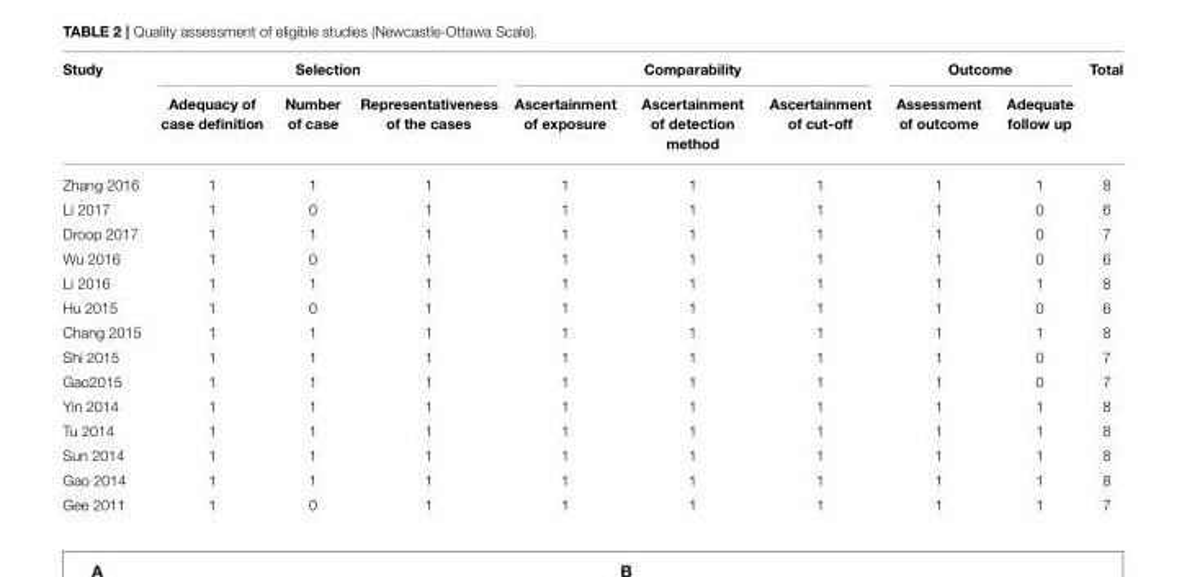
<table><thead><tr><td rowspan="2">Study</td><td colspan="3">Selection</td><td colspan="3">Comparability</td><td colspan="2">Outcome</td><td rowspan="2">Total</td></tr><tr><td>Adequacy of case definition</td><td>Number of case</td><td>Representativeness of the cases</td><td>Ascertainment of exposure</td><td>Ascertainment of detection method</td><td>Ascertainment of cut-off</td><td>Assessment of outcome</td><td>Adequate follow up</td></tr></thead><tbody><tr><td>Zhang 2016</td><td>1</td><td>1</td><td>1</td><td>1</td><td>1</td><td>1</td><td>1</td><td>1</td><td>8</td></tr><tr><td>Li 2017</td><td>1</td><td>0</td><td>1</td><td>1</td><td>1</td><td>1</td><td>1</td><td>0</td><td>6</td></tr><tr><td>Droop 2017</td><td>1</td><td>1</td><td>1</td><td>1</td><td>1</td><td>1</td><td>1</td><td>0</td><td>7</td></tr><tr><td>Wu 2016</td><td>1</td><td>0</td><td>1</td><td>1</td><td>1</td><td>1</td><td>1</td><td>0</td><td>6</td></tr><tr><td>Li 2016</td><td>1</td><td>1</td><td>1</td><td>1</td><td>1</td><td>1</td><td>1</td><td>1</td><td>8</td></tr><tr><td>Hu 2015</td><td>1</td><td>0</td><td>1</td><td>1</td><td>1</td><td>1</td><td>1</td><td>0</td><td>6</td></tr><tr><td>Chang 2015</td><td>1</td><td>1</td><td>1</td><td>1</td><td>1</td><td>1</td><td>1</td><td>1</td><td>8</td></tr><tr><td>Shi 2015</td><td>1</td><td>1</td><td>1</td><td>1</td><td>1</td><td>1</td><td>1</td><td>0</td><td>7</td></tr><tr><td>Gao2015</td><td>1</td><td>1</td><td>1</td><td>1</td><td>1</td><td>1</td><td>1</td><td>0</td><td>7</td></tr><tr><td>Yin 2014</td><td>1</td><td>1</td><td>1</td><td>1</td><td>1</td><td>1</td><td>1</td><td>1</td><td>8</td></tr><tr><td>Tu 2014</td><td>1</td><td>1</td><td>1</td><td>1</td><td>1</td><td>1</td><td>1</td><td>1</td><td>8</td></tr><tr><td>Sun 2014</td><td>1</td><td>1</td><td>1</td><td>1</td><td>1</td><td>1</td><td>1</td><td>1</td><td>8</td></tr><tr><td>Gao 2014</td><td>1</td><td>1</td><td>1</td><td>1</td><td>1</td><td>1</td><td>1</td><td>1</td><td>8</td></tr><tr><td>Gee 2011</td><td>1</td><td>0</td><td>1</td><td>1</td><td>1</td><td>1</td><td>1</td><td>1</td><td>7</td></tr></tbody></table>